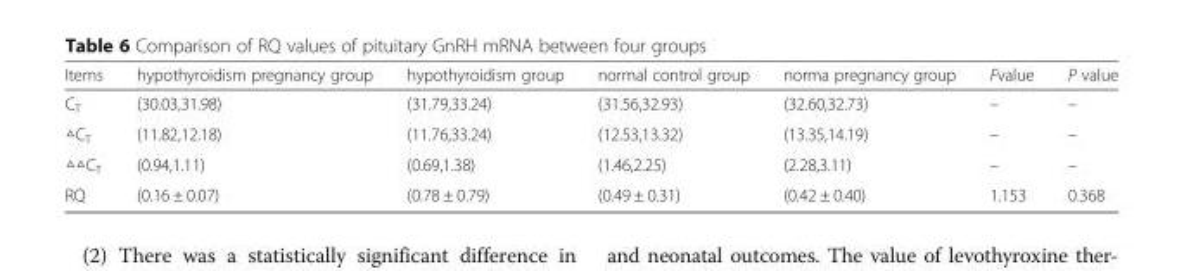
<table><thead><tr><td>Items</td><td>hypothyroidism pregnancy group</td><td>hypothyroidism group</td><td>normal control group</td><td>norma pregnancy group</td><td>Fvalue</td><td>P value</td></tr></thead><tbody><tr><td>C<sub>T</sub></td><td>(30.03,31.98)</td><td>(31.79,33.24)</td><td>(31.56,32.93)</td><td>(32.60,32.73)</td><td>–</td><td>–</td></tr><tr><td>△C<sub>T</sub></td><td>(11.82,12.18)</td><td>(11.76,33.24)</td><td>(12.53,13.32)</td><td>(13.35,14.19)</td><td>–</td><td>–</td></tr><tr><td>△△C<sub>T</sub></td><td>(0.94,1.11)</td><td>(0.69,1.38)</td><td>(1.46,2.25)</td><td>(2.28,3.11)</td><td>–</td><td>–</td></tr><tr><td>RQ</td><td>(0.16 ± 0.07)</td><td>(0.78 ± 0.79)</td><td>(0.49 ± 0.31)</td><td>(0.42 ± 0.40)</td><td>1.153</td><td>0.368</td></tr></tbody></table>